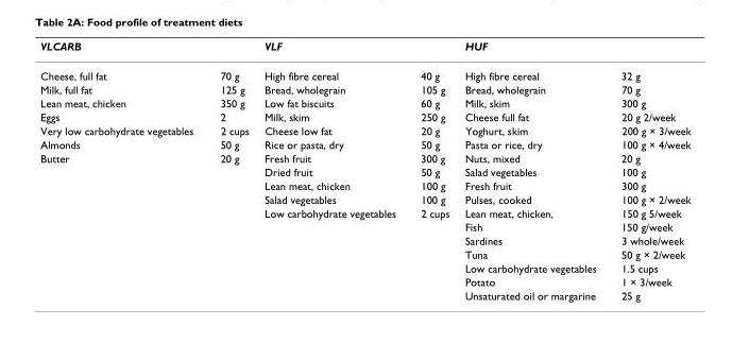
<table><thead><tr><td colspan="2">VLCARB</td><td colspan="2">VLF</td><td colspan="2">HUF</td></tr><tr><td>Cheese, full fat</td><td>70 g</td><td>High fibre cereal</td><td>40 g</td><td>High fibre cereal</td><td>32 g</td></tr></thead><tbody><tr><td>Milk, full fat</td><td>125 g</td><td>Bread, wholegrain</td><td>105 g</td><td>Bread, wholegrain</td><td>70 g</td></tr><tr><td>Lean meat, chicken</td><td>350 g</td><td>Low fat biscuits</td><td>60 g</td><td>Milk, skim</td><td>300 g</td></tr><tr><td>Eggs</td><td>2</td><td>Milk, skim</td><td>250 g</td><td>Cheese full fat</td><td>20 g 2/week</td></tr><tr><td>Very low carbohydrate vegetables</td><td>2 cups</td><td>Cheese low fat</td><td>20 g</td><td>Yoghurt, skim</td><td>200 g × 3/week</td></tr><tr><td>Almonds</td><td>50 g</td><td>Rice or pasta, dry</td><td>50 g</td><td>Pasta or rice, dry</td><td>100 g × 4/week</td></tr><tr><td rowspan="11">Butter</td><td>20 g</td><td>Fresh fruit</td><td>300 g</td><td>Nuts, mixed</td><td>20 g</td></tr><tr><td></td><td>Dried fruit</td><td>50 g</td><td>Salad vegetables</td><td>100 g</td></tr><tr><td></td><td>Lean meat, chicken</td><td>100 g</td><td>Fresh fruit</td><td>300 g</td></tr><tr><td></td><td>Salad vegetables</td><td>100 g</td><td>Pulses, cooked</td><td>100 g × 2/week</td></tr><tr><td></td><td>Low carbohydrate vegetables</td><td>2 cups</td><td>Lean meat, chicken,</td><td>150 g 5/week</td></tr><tr><td></td><td></td><td></td><td>Fish</td><td>150 g/week</td></tr><tr><td></td><td></td><td></td><td>Sardines</td><td>3 whole/week</td></tr><tr><td></td><td></td><td></td><td>Tuna</td><td>50 g × 2/week</td></tr><tr><td></td><td></td><td></td><td>Low carbohydrate vegetables</td><td>1.5 cups</td></tr><tr><td></td><td></td><td></td><td>Potato</td><td>1 × 3/week</td></tr><tr><td></td><td></td><td></td><td>Unsaturated oil or margarine</td><td>25 g</td></tr></tbody></table>